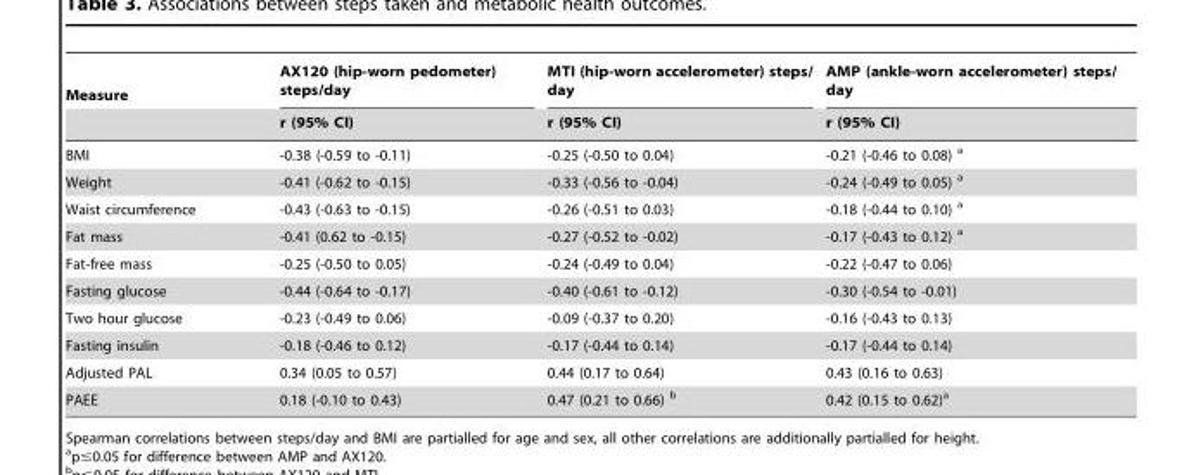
<table><thead><tr><td rowspan="2">Measure</td><td rowspan="2">AX120 (hip-worn pedometer) steps/day r (95% CI)</td><td rowspan="2">MTI (hip-worn accelerometer) steps/ day r (95% CI)</td><td rowspan="2">AMP (ankle-worn accelerometer) steps/ day r (95% CI)</td></tr><tr></tr></thead><tbody><tr><td>BMI</td><td>-0.38 (-0.59 to -0.11)</td><td>-0.25 (-0.50 to 0.04)</td><td>-0.21 (-0.46 to 0.08) a</td></tr><tr><td>Weight</td><td>-0.41 (-0.62 to -0.15)</td><td>-0.33 (-0.56 to -0.04)</td><td>-0.24 (-0.49 to 0.05) a</td></tr><tr><td>Waist circumference</td><td>-0.43 (-0.63 to -0.15)</td><td>-0.26 (-0.51 to 0.03)</td><td>-0.18 (-0.44 to 0.10) a</td></tr><tr><td>Fat mass</td><td>-0.41 (0.62 to -0.15)</td><td>-0.27 (-0.52 to -0.02)</td><td>-0.17 (-0.43 to 0.12) a</td></tr><tr><td>Fat-free mass</td><td>-0.25 (-0.50 to 0.05)</td><td>-0.24 (-0.49 to 0.04)</td><td>-0.22 (-0.47 to 0.06)</td></tr><tr><td>Fasting glucose</td><td>-0.44 (-0.64 to -0.17)</td><td>-0.40 (-0.61 to -0.12)</td><td>-0.30 (-0.54 to -0.01)</td></tr><tr><td>Two hour glucose</td><td>-0.23 (-0.49 to 0.06)</td><td>-0.09 (-0.37 to 0.20)</td><td>-0.16 (-0.43 to 0.13)</td></tr><tr><td>Fasting insulin</td><td>-0.18 (-0.46 to 0.12)</td><td>-0.17 (-0.44 to 0.14)</td><td>-0.17 (-0.44 to 0.14)</td></tr><tr><td>Adjusted PAL</td><td>0.34 (0.05 to 0.57)</td><td>0.44 (0.17 to 0.64)</td><td>0.43 (0.16 to 0.63)</td></tr><tr><td>PAEE</td><td>0.18 (-0.10 to 0.43)</td><td>0.47 (0.21 to 0.66) b</td><td>0.42 (0.15 to 0.62)<sup>a</sup></td></tr></tbody></table>